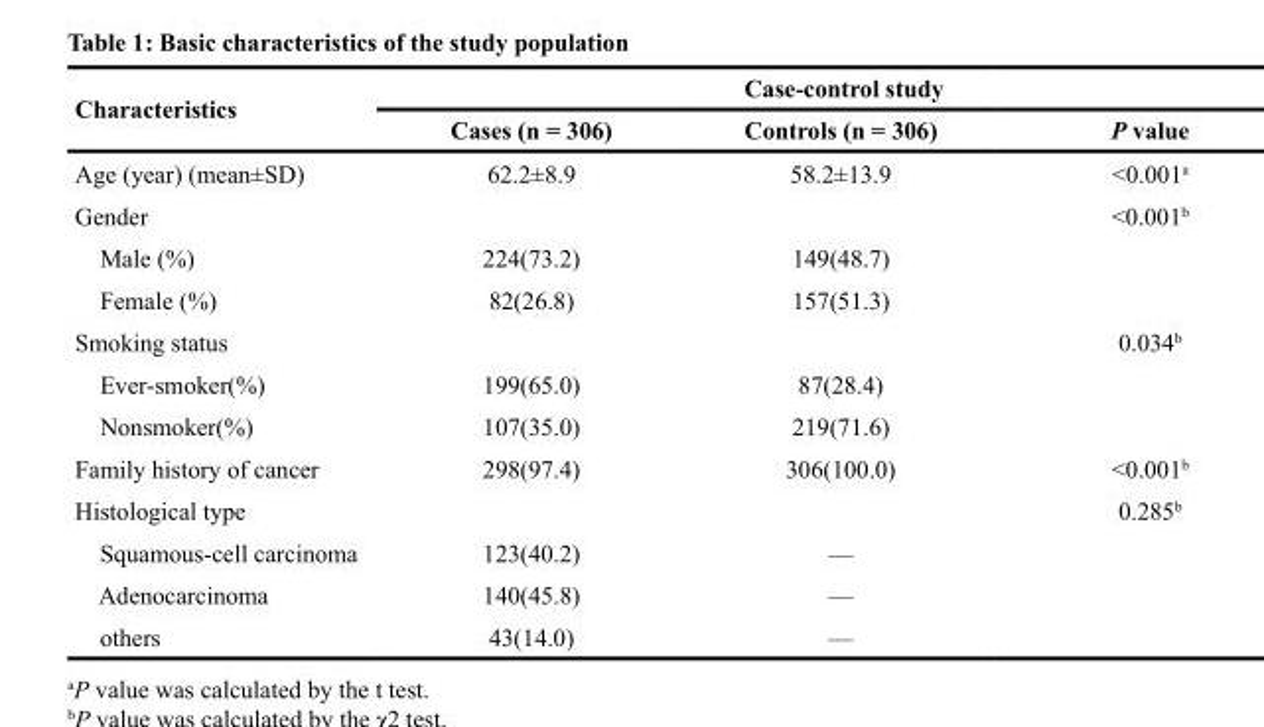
<table><thead><tr><td rowspan="2">Characteristics</td><td colspan="3">Case-control study</td></tr><tr><td>Cases (n = 306)</td><td>Controls (n = 306)</td><td>P value</td></tr></thead><tbody><tr><td>Age (year) (mean±SD)</td><td>62.2±8.9</td><td>58.2±13.9</td><td>&lt;0.001<sup>a</sup></td></tr><tr><td>Gender</td><td></td><td></td><td>&lt;0.001<sup>b</sup></td></tr><tr><td>Male (%)</td><td>224(73.2)</td><td>149(48.7)</td><td></td></tr><tr><td>Female (%)</td><td>82(26.8)</td><td>157(51.3)</td><td></td></tr><tr><td>Smoking status</td><td></td><td></td><td>0.034<sup>b</sup></td></tr><tr><td>Ever-smoker(%)</td><td>199(65.0)</td><td>87(28.4)</td><td></td></tr><tr><td>Nonsmoker(%)</td><td>107(35.0)</td><td>219(71.6)</td><td></td></tr><tr><td>Family history of cancer</td><td>298(97.4)</td><td>306(100.0)</td><td>&lt;0.001<sup>b</sup></td></tr><tr><td>Histological type</td><td></td><td></td><td>0.285<sup>b</sup></td></tr><tr><td>Squamous-cell carcinoma</td><td>123(40.2)</td><td>—</td><td></td></tr><tr><td>Adenocarcinoma</td><td>140(45.8)</td><td>—</td><td></td></tr><tr><td>others</td><td>43(14.0)</td><td>—</td><td></td></tr></tbody></table>